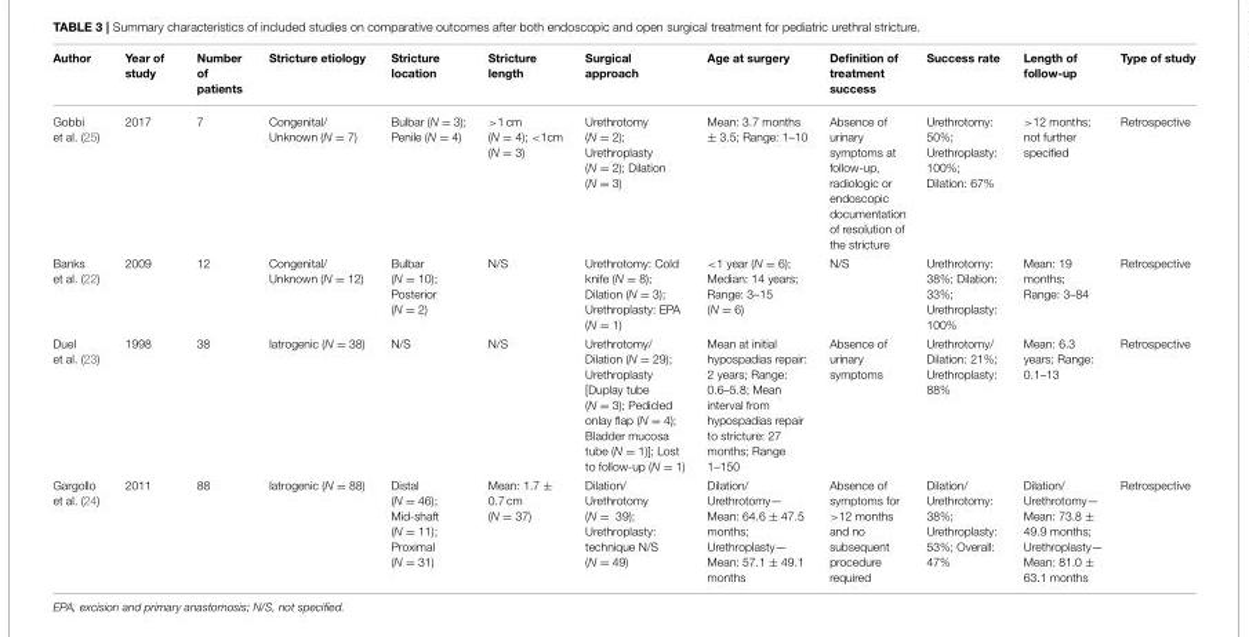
<table><thead><tr><td>Author</td><td>Year of study</td><td>Number of patients</td><td>Stricture etiology</td><td>Stricture location</td><td>Stricture length</td><td>Surgical approach</td><td>Age at surgery</td><td>Definition of treatment success</td><td>Success rate</td><td>Length of follow-up</td><td>Type of study</td></tr></thead><tbody><tr><td>Gobbi et al. (25)</td><td>2017</td><td>7</td><td>Congenital/ Unknown (N = 7)</td><td>Bulbar (N = 3); Penile (N = 4)</td><td>&gt;1 cm (N = 4); &lt;1cm (N = 3)</td><td>Urethrotomy (N = 2); Urethroplasty (N = 2); Dilation (N = 3)</td><td>Mean: 3.7 months ± 3.5; Range: 1–10</td><td>Absence of urinary symptoms at follow-up, radiologic or endoscopic documentation of resolution of the stricture</td><td>Urethrotomy: 50%; Urethroplasty: 100%; Dilation: 67%</td><td>&gt;12 months; not further specified</td><td>Retrospective</td></tr><tr><td>Banks et al. (22)</td><td>2009</td><td>12</td><td>Congenital/ Unknown (N = 12)</td><td>Bulbar (N = 10); Posterior (N = 2)</td><td>N/S</td><td>Urethrotomy: Cold knife (N = 8); Dilation (N = 3); Urethroplasty: EPA (N = 1)</td><td>&lt;1 year (N = 6); Median: 14 years; Range: 3–15 (N = 6)</td><td>N/S</td><td>Urethrotomy: 38%; Dilation: 33%; Urethroplasty: 100%</td><td>Mean: 19 months; Range: 3–84</td><td>Retrospective</td></tr><tr><td>Duel et al. (23)</td><td>1998</td><td>38</td><td>Iatrogenic (N = 38)</td><td>N/S</td><td>N/S</td><td>Urethrotomy/ Dilation (N = 29); Urethroplasty [Duplay tube (N = 3); Pedicled onlay flap (N = 4); Bladder mucosa tube (N = 1)]; Lost to follow-up (N = 1)</td><td>Mean at initial hypospadias repair: 2 years; Range: 0.6–5.8; Mean interval from hypospadias repair to stricture: 27 months; Range 1–150</td><td>Absence of urinary symptoms</td><td>Urethrotomy/ Dilation: 21%; Urethroplasty: 88%</td><td>Mean: 6.3 years; Range: 0.1–13</td><td>Retrospective</td></tr><tr><td>Gargollo et al. (24)</td><td>2011</td><td>88</td><td>Iatrogenic (N = 88)</td><td>Distal (N = 46); Mid-shaft (N = 11); Proximal (N = 31)</td><td>Mean: 1.7 ± 0.7 cm (N = 37)</td><td>Dilation/ Urethrotomy (N = 39); Urethroplasty: technique N/S (N = 49)</td><td>Dilation/ Urethrotomy— Mean: 64.6 ± 47.5 months; Urethroplasty— Mean: 57.1 ± 49.1 months</td><td>Absence of symptoms for &gt;12 months and no subsequent procedure required</td><td>Dilation/ Urethrotomy: 38%; Urethroplasty: 53%; Overall: 47%</td><td>Dilation/ Urethrotomy— Mean: 73.8 ± 49.9 months; Urethroplasty— Mean: 81.0 ± 63.1 months</td><td>Retrospective</td></tr></tbody></table>